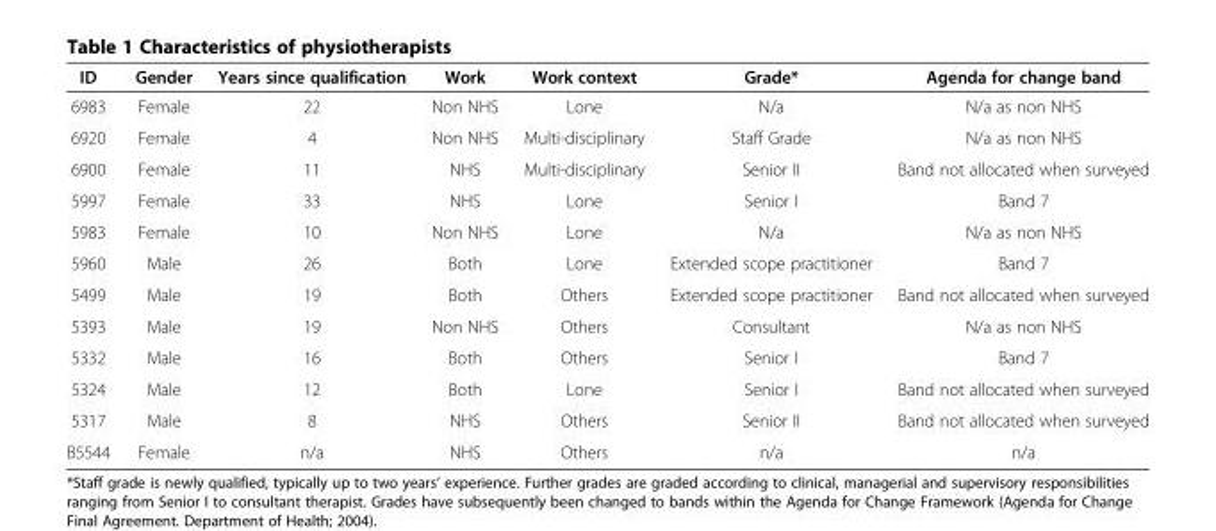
<table><thead><tr><td>ID</td><td>Gender</td><td>Years since qualification</td><td>Work</td><td>Work context</td><td>Grade*</td><td>Agenda for change band</td></tr></thead><tbody><tr><td>6983</td><td>Female</td><td>22</td><td>Non NHS</td><td>Lone</td><td>N/a</td><td>N/a as non NHS</td></tr><tr><td>6920</td><td>Female</td><td>4</td><td>Non NHS</td><td>Multi-disciplinary</td><td>Staff Grade</td><td>N/a as non NHS</td></tr><tr><td>6900</td><td>Female</td><td>11</td><td>NHS</td><td>Multi-disciplinary</td><td>Senior II</td><td>Band not allocated when surveyed</td></tr><tr><td>5997</td><td>Female</td><td>33</td><td>NHS</td><td>Lone</td><td>Senior I</td><td>Band 7</td></tr><tr><td>5983</td><td>Female</td><td>10</td><td>Non NHS</td><td>Lone</td><td>N/a</td><td>N/a as non NHS</td></tr><tr><td>5960</td><td>Male</td><td>26</td><td>Both</td><td>Lone</td><td>Extended scope practitioner</td><td>Band 7</td></tr><tr><td>5499</td><td>Male</td><td>19</td><td>Both</td><td>Others</td><td>Extended scope practitioner</td><td>Band not allocated when surveyed</td></tr><tr><td>5393</td><td>Male</td><td>19</td><td>Non NHS</td><td>Others</td><td>Consultant</td><td>N/a as non NHS</td></tr><tr><td>5332</td><td>Male</td><td>16</td><td>Both</td><td>Others</td><td>Senior I</td><td>Band 7</td></tr><tr><td>5324</td><td>Male</td><td>12</td><td>Both</td><td>Lone</td><td>Senior I</td><td>Band not allocated when surveyed</td></tr><tr><td>5317</td><td>Male</td><td>8</td><td>NHS</td><td>Others</td><td>Senior II</td><td>Band not allocated when surveyed</td></tr><tr><td>B5544</td><td>Female</td><td>n/a</td><td>NHS</td><td>Others</td><td>n/a</td><td>n/a</td></tr></tbody></table>